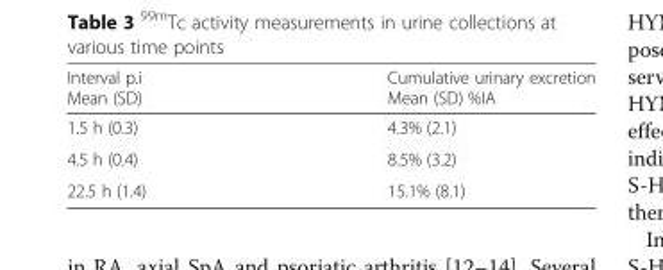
<table><thead><tr><td>Interval p.i Mean (SD)</td><td>Cumulative urinary excretion Mean (SD) %IA</td></tr></thead><tbody><tr><td>1.5 h (0.3)</td><td>4.3% (2.1)</td></tr><tr><td>4.5 h (0.4)</td><td>8.5% (3.2)</td></tr><tr><td>22.5 h (1.4)</td><td>15.1% (8.1)</td></tr></tbody></table>